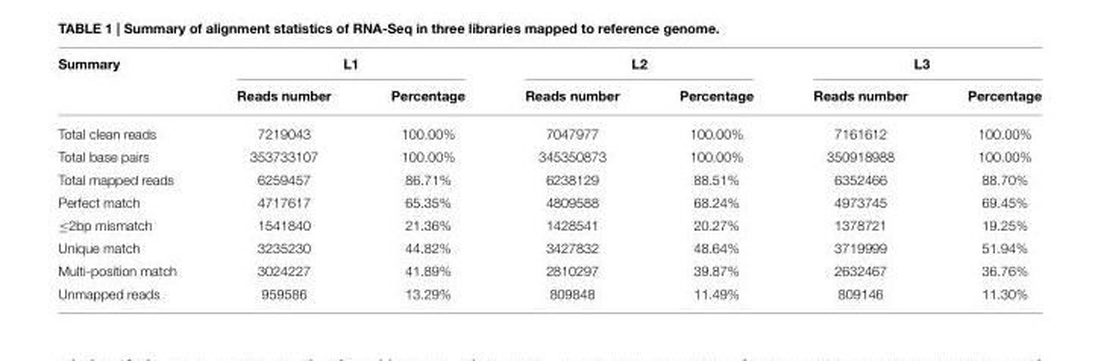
<table><thead><tr><td rowspan="2">Summary</td><td colspan="2">L1</td><td colspan="2">L2</td><td colspan="2">L3</td></tr><tr><td>Reads number</td><td>Percentage</td><td>Reads number</td><td>Percentage</td><td>Reads number</td><td>Percentage</td></tr></thead><tbody><tr><td>Total clean reads</td><td>7219043</td><td>100.00%</td><td>7047977</td><td>100.00%</td><td>7161612</td><td>100.00%</td></tr><tr><td>Total base pairs</td><td>353733107</td><td>100.00%</td><td>345350873</td><td>100.00%</td><td>350918988</td><td>100.00%</td></tr><tr><td>Total mapped reads</td><td>6259457</td><td>86.71%</td><td>6238129</td><td>88.51%</td><td>6352466</td><td>88.70%</td></tr><tr><td>Perfect match</td><td>4717617</td><td>65.35%</td><td>4809588</td><td>68.24%</td><td>4973745</td><td>69.45%</td></tr><tr><td>≤2bp mismatch</td><td>1541840</td><td>21.36%</td><td>1428541</td><td>20.27%</td><td>1378721</td><td>19.25%</td></tr><tr><td>Unique match</td><td>3235230</td><td>44.82%</td><td>3427832</td><td>48.64%</td><td>3719999</td><td>51.94%</td></tr><tr><td>Multi-position match</td><td>3024227</td><td>41.89%</td><td>2810297</td><td>39.87%</td><td>2632467</td><td>36.76%</td></tr><tr><td>Unmapped reads</td><td>959586</td><td>13.29%</td><td>809848</td><td>11.49%</td><td>809146</td><td>11.30%</td></tr></tbody></table>